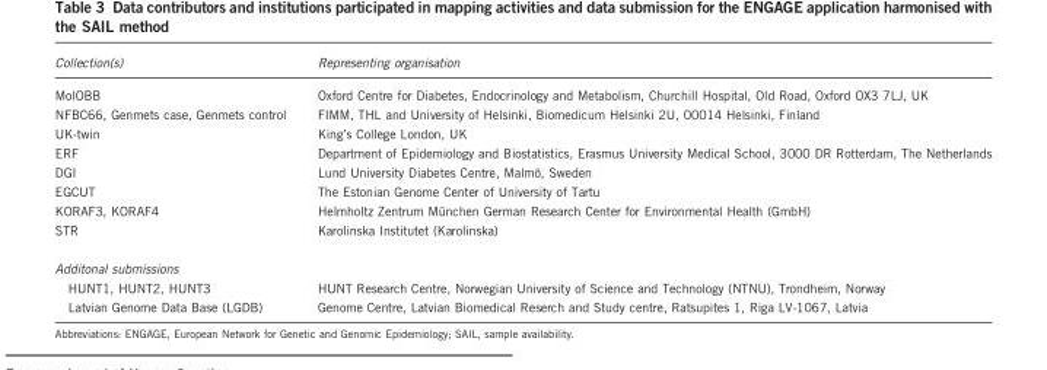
<table><thead><tr><td>Collection(s)</td><td>Representing organisation</td></tr></thead><tbody><tr><td>MolOBB</td><td>Oxford Centre for Diabetes, Endocrinology and Metabolism, Churchill Hospital, Old Road, Oxford OX3 7LJ, UK</td></tr><tr><td>NFBC66, Genmets case, Genmets control</td><td>FIMM, THL and University of Helsinki, Biomedicum Helsinki 2U, 00014 Helsinki, Finland</td></tr><tr><td>UK-twin</td><td>King’s College London, UK</td></tr><tr><td>ERF</td><td>Department of Epidemiology and Biostatistics, Erasmus University Medical School, 3000 DR Rotterdam, The Netherlands</td></tr><tr><td>DGI</td><td>Lund University Diabetes Centre, Malmö, Sweden</td></tr><tr><td>EGCUT</td><td>The Estonian Genome Center of University of Tartu</td></tr><tr><td>KORAF3, KORAF4</td><td>Helmholtz Zentrum München German Research Center for Environmental Health (GmbH)</td></tr><tr><td>STR</td><td>Karolinska Institutet (Karolinska)</td></tr><tr><td colspan="2">Additonal submissions</td></tr><tr><td>HUNT1, HUNT2, HUNT3</td><td>HUNT Research Centre, Norwegian University of Science and Technology (NTNU), Trondheim, Norway</td></tr><tr><td>Latvian Genome Data Base (LGDB)</td><td>Genome Centre, Latvian Biomedical Reserch and Study centre, Ratsupites 1, Riga LV-1067, Latvia</td></tr></tbody></table>